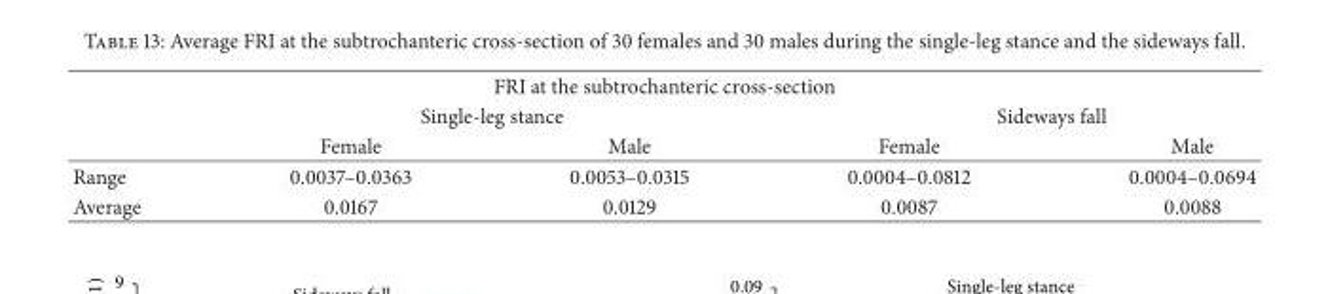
<table><thead><tr><td colspan="5">FRI at the subtrochanteric cross-section</td></tr><tr><td rowspan="2"></td><td colspan="2">Single-leg stance</td><td colspan="2">Sideways fall</td></tr><tr><td>Female</td><td>Male</td><td>Female</td><td>Male</td></tr></thead><tbody><tr><td>Range</td><td>0.0037–0.0363</td><td>0.0053–0.0315</td><td>0.0004–0.0812</td><td>0.0004–0.0694</td></tr><tr><td>Average</td><td>0.0167</td><td>0.0129</td><td>0.0087</td><td>0.0088</td></tr></tbody></table>